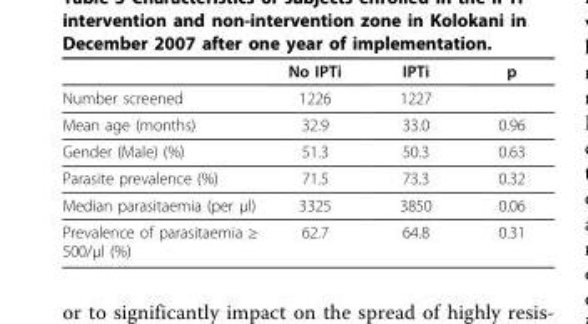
<table><thead><tr><td></td><td>No IPTi</td><td>IPTi</td><td>p</td></tr></thead><tbody><tr><td>Number screened</td><td>1226</td><td>1227</td><td></td></tr><tr><td>Mean age (months)</td><td>32.9</td><td>33.0</td><td>0.96</td></tr><tr><td>Gender (Male) (%)</td><td>51.3</td><td>50.3</td><td>0.63</td></tr><tr><td>Parasite prevalence (%)</td><td>71.5</td><td>73.3</td><td>0.32</td></tr><tr><td>Median parasitaemia (per μl)</td><td>3325</td><td>3850</td><td>0.06</td></tr><tr><td>Prevalence of parasitaemia ≥ 500/μl (%)</td><td>62.7</td><td>64.8</td><td>0.31</td></tr></tbody></table>